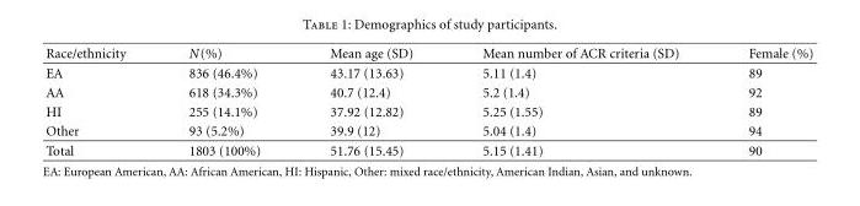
<table><thead><tr><td>Race/ethnicity</td><td>N(%)</td><td>Mean age (SD)</td><td>Mean number of ACR criteria (SD)</td><td>Female (%)</td></tr></thead><tbody><tr><td>EA</td><td>836 (46.4%)</td><td>43.17 (13.63)</td><td>5.11 (1.4)</td><td>89</td></tr><tr><td>AA</td><td>618 (34.3%)</td><td>40.7 (12.4)</td><td>5.2 (1.4)</td><td>92</td></tr><tr><td>HI</td><td>255 (14.1%)</td><td>37.92 (12.82)</td><td>5.25 (1.55)</td><td>89</td></tr><tr><td>Other</td><td>93 (5.2%)</td><td>39.9 (12)</td><td>5.04 (1.4)</td><td>94</td></tr><tr><td>Total</td><td>1803 (100%)</td><td>51.76 (15.45)</td><td>5.15 (1.41)</td><td>90</td></tr></tbody></table>